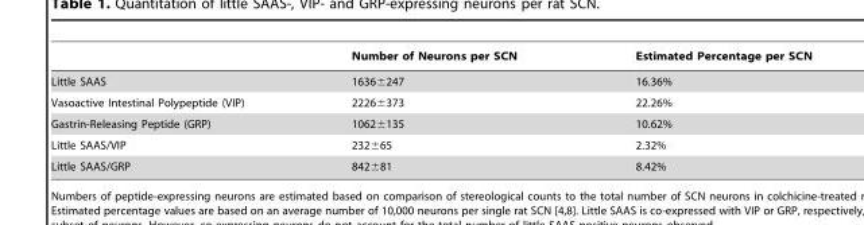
<table><thead><tr><td></td><td>Number of Neurons per SCN</td><td>Estimated Percentage per SCN</td></tr></thead><tbody><tr><td>Little SAAS</td><td>1636±247</td><td>16.36%</td></tr><tr><td>Vasoactive Intestinal Polypeptide (VIP)</td><td>2226±373</td><td>22.26%</td></tr><tr><td>Gastrin-Releasing Peptide (GRP)</td><td>1062±135</td><td>10.62%</td></tr><tr><td>Little SAAS/VIP</td><td>232±65</td><td>2.32%</td></tr><tr><td>Little SAAS/GRP</td><td>842±81</td><td>8.42%</td></tr></tbody></table>